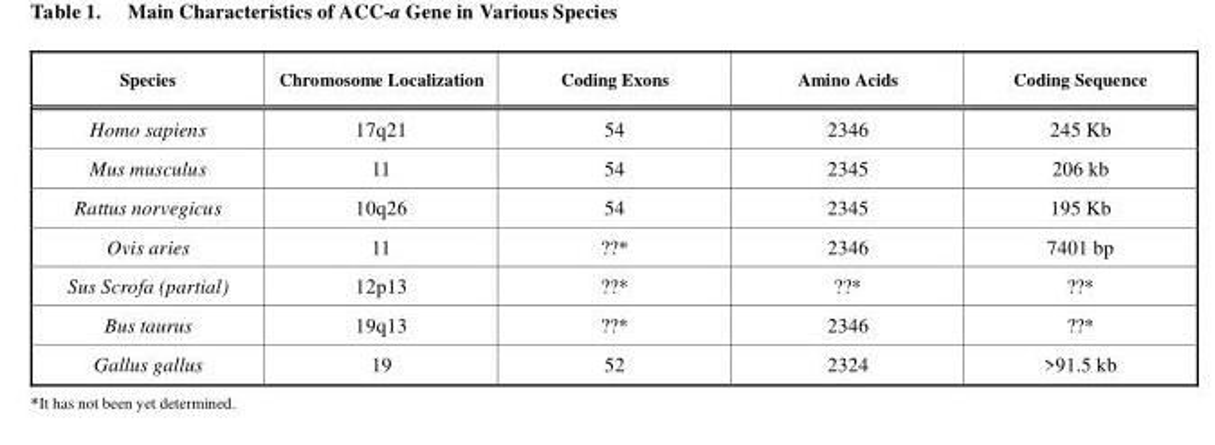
<table><thead><tr><td>Species</td><td>Chromosome Localization</td><td>Coding Exons</td><td>Amino Acids</td><td>Coding Sequence</td></tr></thead><tbody><tr><td>Homo sapiens</td><td>17q21</td><td>54</td><td>2346</td><td>245 Kb</td></tr><tr><td>Mus musculus</td><td>11</td><td>54</td><td>2345</td><td>206 kb</td></tr><tr><td>Rattus norvegicus</td><td>10q26</td><td>54</td><td>2345</td><td>195 Kb</td></tr><tr><td>Ovis aries</td><td>11</td><td>??*</td><td>2346</td><td>7401 bp</td></tr><tr><td>Sus Scrofa (partial)</td><td>12p13</td><td>??*</td><td>??*</td><td>??*</td></tr><tr><td>Bus taurus</td><td>19q13</td><td>??*</td><td>2346</td><td>??*</td></tr><tr><td>Gallus gallus</td><td>19</td><td>52</td><td>2324</td><td>&gt;91.5 kb</td></tr></tbody></table>